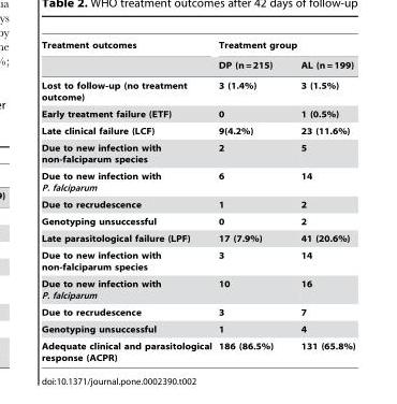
<table><thead><tr><td rowspan="2">Treatment outcomes</td><td colspan="2">Treatment group</td></tr><tr><td>DP (n = 215)</td><td>AL (n = 199)</td></tr></thead><tbody><tr><td>Lost to follow-up (no treatment outcome)</td><td>3 (1.4%)</td><td>3 (1.5%)</td></tr><tr><td>Early treatment failure (ETF)</td><td>0</td><td>1 (0.5%)</td></tr><tr><td>Late clinical failure (LCF)</td><td>9(4.2%)</td><td>23 (11.6%)</td></tr><tr><td>Due to new infection with non-falciparum species</td><td>2</td><td>5</td></tr><tr><td>Due to new infection with P. falciparum</td><td>6</td><td>14</td></tr><tr><td>Due to recrudescence</td><td>1</td><td>2</td></tr><tr><td>Genotyping unsuccessful</td><td>0</td><td>2</td></tr><tr><td>Late parasitological failure (LPF)</td><td>17 (7.9%)</td><td>41 (20.6%)</td></tr><tr><td>Due to new infection with non-falciparum species</td><td>3</td><td>14</td></tr><tr><td>Due to new infection with P. falciparum</td><td>10</td><td>16</td></tr><tr><td>Due to recrudescence</td><td>3</td><td>7</td></tr><tr><td>Genotyping unsuccessful</td><td>1</td><td>4</td></tr><tr><td>Adequate clinical and parasitological response (ACPR)</td><td>186 (86.5%)</td><td>131 (65.8%)</td></tr></tbody></table>